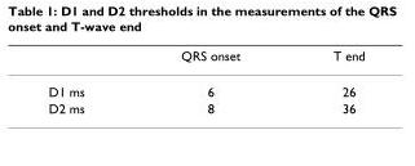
<table><thead><tr><td></td><td>QRS onset</td><td>T end</td></tr></thead><tbody><tr><td>D1 ms</td><td>6</td><td>26</td></tr><tr><td>D2 ms</td><td>8</td><td>36</td></tr></tbody></table>